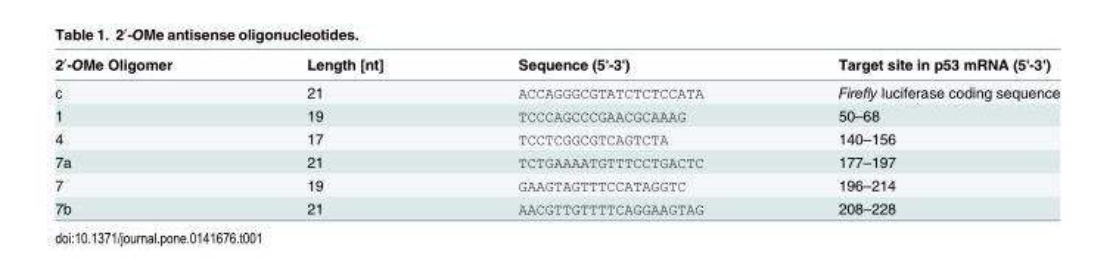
<table><thead><tr><td>2′-OMe Oligomer</td><td>Length [nt]</td><td>Sequence (5&#x27;-3&#x27;)</td><td>Target site in p53 mRNA (5&#x27;-3&#x27;)</td></tr></thead><tbody><tr><td>c</td><td>21</td><td>ACCAGGGCGTATCTCTCCATA</td><td>Firefly luciferase coding sequence</td></tr><tr><td>1</td><td>19</td><td>TCCCAGCCCGAACGCAAAG</td><td>50–68</td></tr><tr><td>4</td><td>17</td><td>TCCTCGGCGTCAGTCTA</td><td>140–156</td></tr><tr><td>7a</td><td>21</td><td>TCTGAAAATGTTTCCTGACTC</td><td>177–197</td></tr><tr><td>7</td><td>19</td><td>GAAGTAGTTTCCATAGGTC</td><td>196–214</td></tr><tr><td>7b</td><td>21</td><td>AACGTTGTTTTCAGGAAGTAG</td><td>208–228</td></tr></tbody></table>